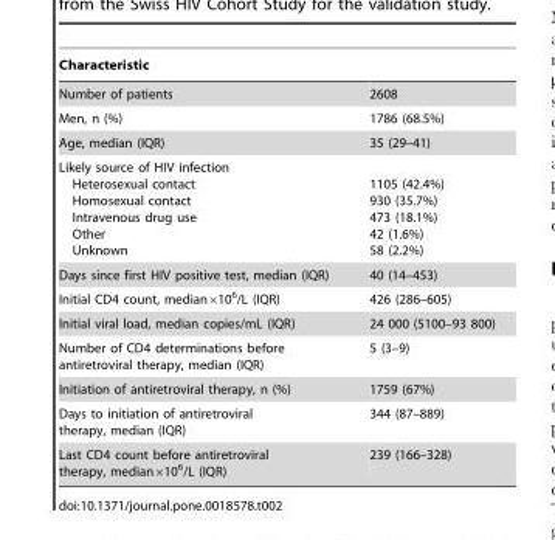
<table><thead><tr><td>Characteristic</td><td></td></tr></thead><tbody><tr><td>Number of patients</td><td>2608</td></tr><tr><td>Men, n (%)</td><td>1786 (68.5%)</td></tr><tr><td>Age, median (IQR)</td><td>35 (29–41)</td></tr><tr><td>Likely source of HIV infection Heterosexual contact Homosexual contact Intravenous drug use Other Unknown</td><td>1105 (42.4%) 930 (35.7%) 473 (18.1%) 42 (1.6%) 58 (2.2%)</td></tr><tr><td>Days since first HIV positive test, median (IQR)</td><td>40 (14–453)</td></tr><tr><td>Initial CD4 count, median×10<sup>6</sup>/L (IQR)</td><td>426 (286–605)</td></tr><tr><td>Initial viral load, median copies/mL (IQR)</td><td>24 000 (5100–93 800)</td></tr><tr><td>Number of CD4 determinations before antiretroviral therapy, median (IQR)</td><td>5 (3–9)</td></tr><tr><td>Initiation of antiretroviral therapy, n (%)</td><td>1759 (67%)</td></tr><tr><td>Days to initiation of antiretroviral therapy, median (IQR)</td><td>344 (87–889)</td></tr><tr><td>Last CD4 count before antiretroviral therapy, median×10<sup>6</sup>/L (IQR)</td><td>239 (166–328)</td></tr></tbody></table>